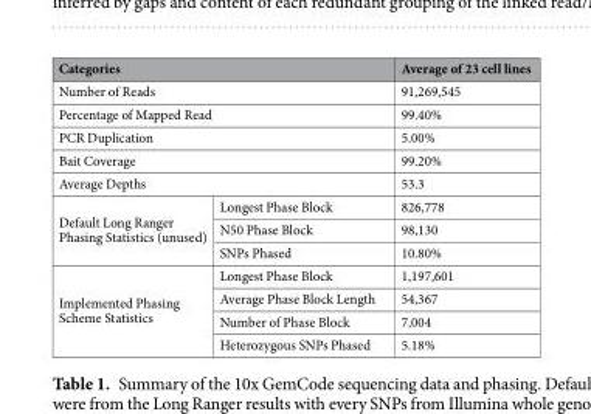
<table><thead><tr><td colspan="2">Categories</td><td>Average of 23 cell lines</td></tr></thead><tbody><tr><td colspan="2">Number of Reads</td><td>91,269,545</td></tr><tr><td colspan="2">Percentage of Mapped Read</td><td>99.40%</td></tr><tr><td colspan="2">PCR Duplication</td><td>5.00%</td></tr><tr><td colspan="2">Bait Coverage</td><td>99.20%</td></tr><tr><td colspan="2">Average Depths</td><td>53.3</td></tr><tr><td rowspan="3">Default Long Ranger Phasing Statistics (unused)</td><td>Longest Phase Block</td><td>826,778</td></tr><tr><td>N50 Phase Block</td><td>98,130</td></tr><tr><td>SNPs Phased</td><td>10.80%</td></tr><tr><td rowspan="4">Implemented Phasing Scheme Statistics</td><td>Longest Phase Block</td><td>1,197,601</td></tr><tr><td>Average Phase Block Length</td><td>54,367</td></tr><tr><td>Number of Phase Block</td><td>7,004</td></tr><tr><td>Heterozygous SNPs Phased</td><td>5.18%</td></tr></tbody></table>